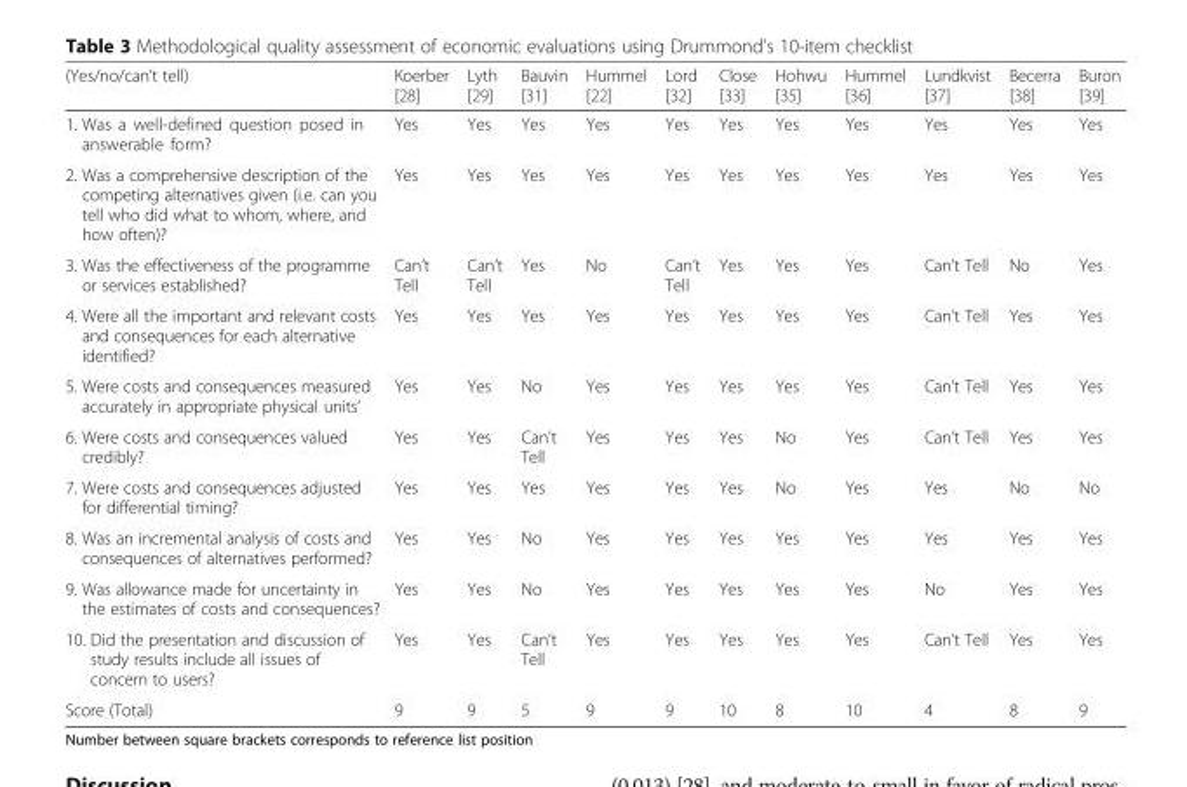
<table><thead><tr><td>(Yes/no/can’t tell)</td><td>Koerber [28]</td><td>Lyth [29]</td><td>Bauvin [31]</td><td>Hummel [22]</td><td>Lord [32]</td><td>Close [33]</td><td>Hohwu [35]</td><td>Hummel [36]</td><td>Lundkvist [37]</td><td>Becerra [38]</td><td>Buron [39]</td></tr></thead><tbody><tr><td>1. Was a well-defined question posed in answerable form?</td><td>Yes</td><td>Yes</td><td>Yes</td><td>Yes</td><td>Yes</td><td>Yes</td><td>Yes</td><td>Yes</td><td>Yes</td><td>Yes</td><td>Yes</td></tr><tr><td>2. Was a comprehensive description of the competing alternatives given (i.e. can you tell who did what to whom, where, and how often)?</td><td>Yes</td><td>Yes</td><td>Yes</td><td>Yes</td><td>Yes</td><td>Yes</td><td>Yes</td><td>Yes</td><td>Yes</td><td>Yes</td><td>Yes</td></tr><tr><td>3. Was the effectiveness of the programme or services established?</td><td>Can’t Tell</td><td>Can’t Tell</td><td>Yes</td><td>No</td><td>Can’t Tell</td><td>Yes</td><td>Yes</td><td>Yes</td><td>Can’t Tell</td><td>No</td><td>Yes</td></tr><tr><td>4. Were all the important and relevant costs and consequences for each alternative identified?</td><td>Yes</td><td>Yes</td><td>Yes</td><td>Yes</td><td>Yes</td><td>Yes</td><td>Yes</td><td>Yes</td><td>Can’t Tell</td><td>Yes</td><td>Yes</td></tr><tr><td>5. Were costs and consequences measured accurately in appropriate physical units’</td><td>Yes</td><td>Yes</td><td>No</td><td>Yes</td><td>Yes</td><td>Yes</td><td>Yes</td><td>Yes</td><td>Can’t Tell</td><td>Yes</td><td>Yes</td></tr><tr><td>6. Were costs and consequences valued credibly?</td><td>Yes</td><td>Yes</td><td>Can’t Tell</td><td>Yes</td><td>Yes</td><td>Yes</td><td>No</td><td>Yes</td><td>Can’t Tell</td><td>Yes</td><td>Yes</td></tr><tr><td>7. Were costs and consequences adjusted for differential timing?</td><td>Yes</td><td>Yes</td><td>Yes</td><td>Yes</td><td>Yes</td><td>Yes</td><td>No</td><td>Yes</td><td>Yes</td><td>No</td><td>No</td></tr><tr><td>8. Was an incremental analysis of costs and consequences of alternatives performed?</td><td>Yes</td><td>Yes</td><td>No</td><td>Yes</td><td>Yes</td><td>Yes</td><td>Yes</td><td>Yes</td><td>Yes</td><td>Yes</td><td>Yes</td></tr><tr><td>9. Was allowance made for uncertainty in the estimates of costs and consequences?</td><td>Yes</td><td>Yes</td><td>No</td><td>Yes</td><td>Yes</td><td>Yes</td><td>Yes</td><td>Yes</td><td>No</td><td>Yes</td><td>Yes</td></tr><tr><td>10. Did the presentation and discussion of study results include all issues of concern to users?</td><td>Yes</td><td>Yes</td><td>Can’t Tell</td><td>Yes</td><td>Yes</td><td>Yes</td><td>Yes</td><td>Yes</td><td>Can’t Tell</td><td>Yes</td><td>Yes</td></tr><tr><td>Score (Total)</td><td>9</td><td>9</td><td>5</td><td>9</td><td>9</td><td>10</td><td>8</td><td>10</td><td>4</td><td>8</td><td>9</td></tr></tbody></table>